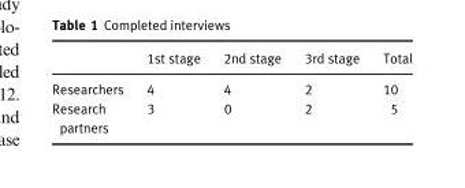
<table><thead><tr><td></td><td>1st stage</td><td>2nd stage</td><td>3rd stage</td><td>Total</td></tr></thead><tbody><tr><td>Researchers</td><td>4</td><td>4</td><td>2</td><td>10</td></tr><tr><td>Research partners</td><td>3</td><td>0</td><td>2</td><td>5</td></tr></tbody></table>